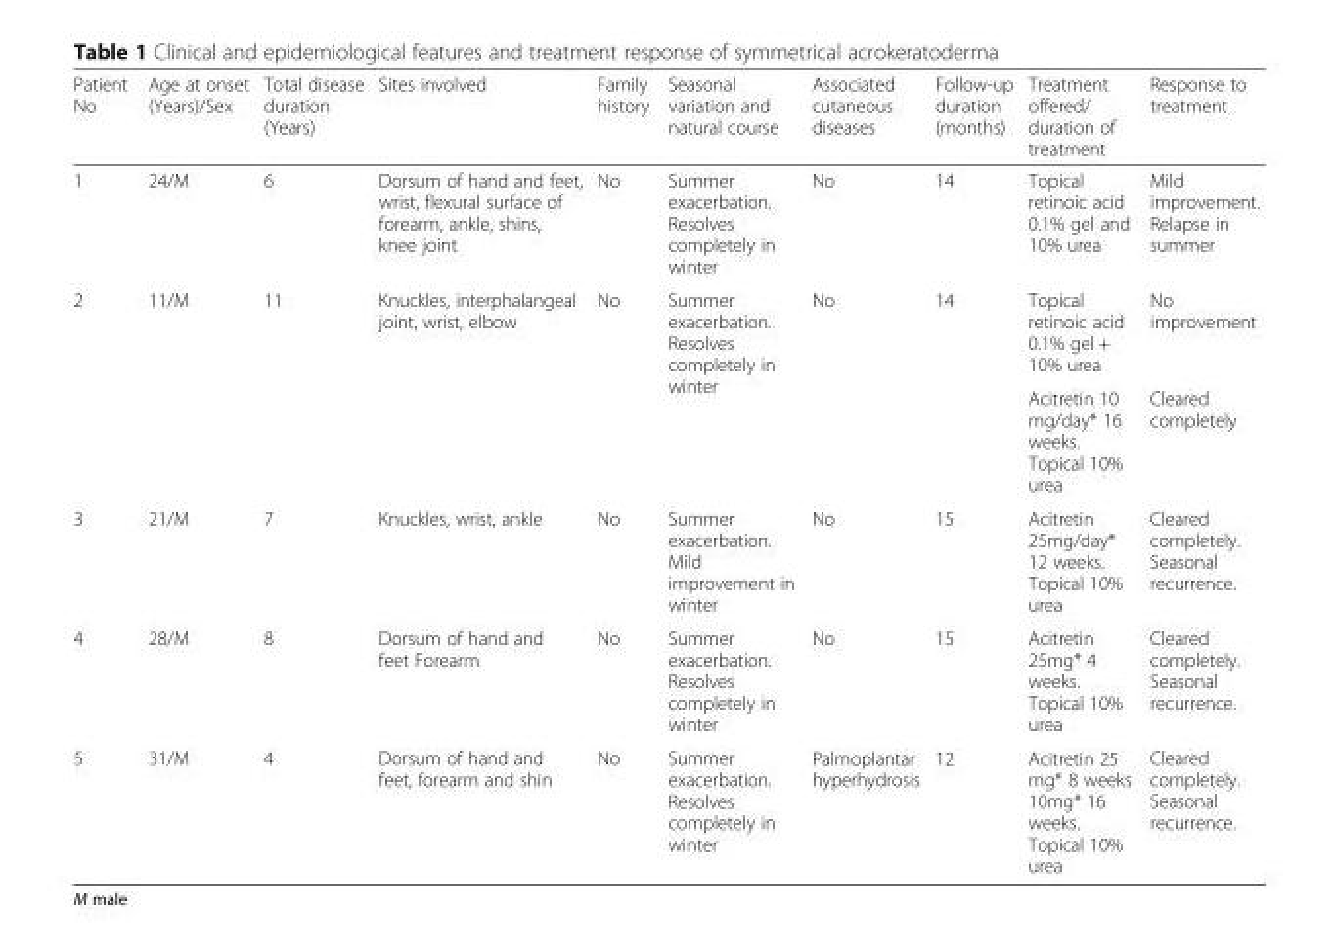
<table><thead><tr><td>Patient No</td><td>Age at onset (Years)/Sex</td><td>Total disease duration (Years)</td><td>Sites involved</td><td>Family history</td><td>Seasonal variation and natural course</td><td>Associated cutaneous diseases</td><td>Follow-up duration (months)</td><td>Treatment offered/ duration of treatment</td><td>Response to treatment</td></tr></thead><tbody><tr><td>1</td><td>24/M</td><td>6</td><td>Dorsum of hand and feet, wrist, flexural surface of forearm, ankle, shins, knee joint</td><td>No</td><td>Summer exacerbation. Resolves completely in winter</td><td>No</td><td>14</td><td>Topical retinoic acid 0.1% gel and 10% urea</td><td>Mild improvement. Relapse in summer</td></tr><tr><td rowspan="2">2</td><td rowspan="2">11/M</td><td rowspan="2">11</td><td rowspan="2">Knuckles, interphalangeal joint, wrist, elbow</td><td rowspan="2">No</td><td rowspan="2">Summer exacerbation. Resolves completely in winter</td><td rowspan="2">No</td><td rowspan="2">14</td><td>Topical retinoic acid 0.1% gel + 10% urea</td><td>No improvement</td></tr><tr><td>Acitretin 10 mg/day* 16 weeks. Topical 10% urea</td><td>Cleared completely</td></tr><tr><td>3</td><td>21/M</td><td>7</td><td>Knuckles, wrist, ankle</td><td>No</td><td>Summer exacerbation. Mild improvement in winter</td><td>No</td><td>15</td><td>Acitretin 25mg/day* 12 weeks. Topical 10% urea</td><td>Cleared completely. Seasonal recurrence.</td></tr><tr><td>4</td><td>28/M</td><td>8</td><td>Dorsum of hand and feet Forearm</td><td>No</td><td>Summer exacerbation. Resolves completely in winter</td><td>No</td><td>15</td><td>Acitretin 25mg* 4 weeks. Topical 10% urea</td><td>Cleared completely. Seasonal recurrence.</td></tr><tr><td>5</td><td>31/M</td><td>4</td><td>Dorsum of hand and feet, forearm and shin</td><td>No</td><td>Summer exacerbation. Resolves completely in winter</td><td>Palmoplantar hyperhydrosis</td><td>12</td><td>Acitretin 25 mg* 8 weeks 10mg* 16 weeks. Topical 10% urea</td><td>Cleared completely. Seasonal recurrence.</td></tr></tbody></table>